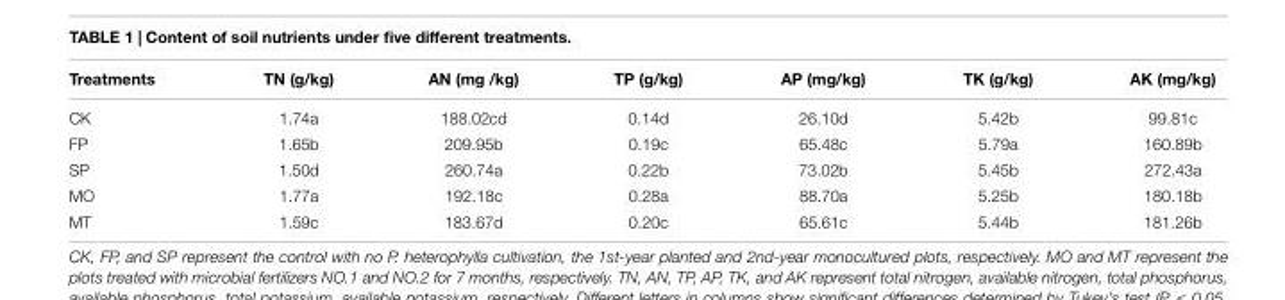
<table><thead><tr><td>Treatments</td><td>TN (g/kg)</td><td>AN (mg /kg)</td><td>TP (g/kg)</td><td>AP (mg/kg)</td><td>TK (g/kg)</td><td>AK (mg/kg)</td></tr></thead><tbody><tr><td>CK</td><td>1.74a</td><td>188.02cd</td><td>0.14d</td><td>26.10d</td><td>5.42b</td><td>99.81c</td></tr><tr><td>FP</td><td>1.65b</td><td>209.95b</td><td>0.19c</td><td>65.48c</td><td>5.79a</td><td>160.89b</td></tr><tr><td>SP</td><td>1.50d</td><td>260.74a</td><td>0.22b</td><td>73.02b</td><td>5.45b</td><td>272.43a</td></tr><tr><td>MO</td><td>1.77a</td><td>192.18c</td><td>0.28a</td><td>88.70a</td><td>5.25b</td><td>180.18b</td></tr><tr><td>MT</td><td>1.59c</td><td>183.67d</td><td>0.20c</td><td>65.61c</td><td>5.44b</td><td>181.26b</td></tr></tbody></table>